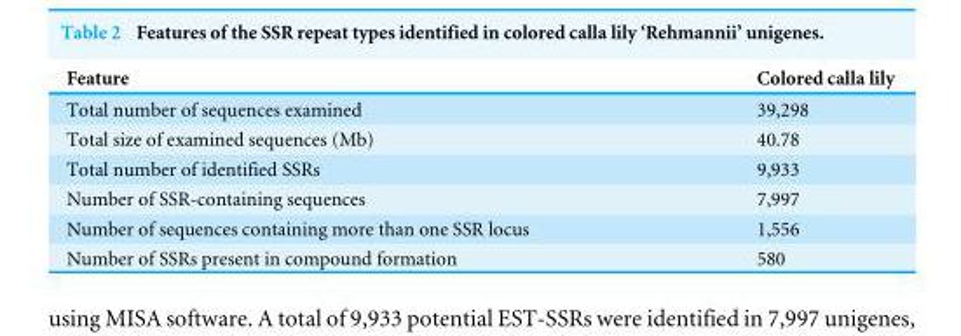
<table><thead><tr><td>Feature</td><td>Colored calla lily</td></tr></thead><tbody><tr><td>Total number of sequences examined</td><td>39,298</td></tr><tr><td>Total size of examined sequences (Mb)</td><td>40.78</td></tr><tr><td>Total number of identified SSRs</td><td>9,933</td></tr><tr><td>Number of SSR-containing sequences</td><td>7,997</td></tr><tr><td>Number of sequences containing more than one SSR locus</td><td>1,556</td></tr><tr><td>Number of SSRs present in compound formation</td><td>580</td></tr></tbody></table>